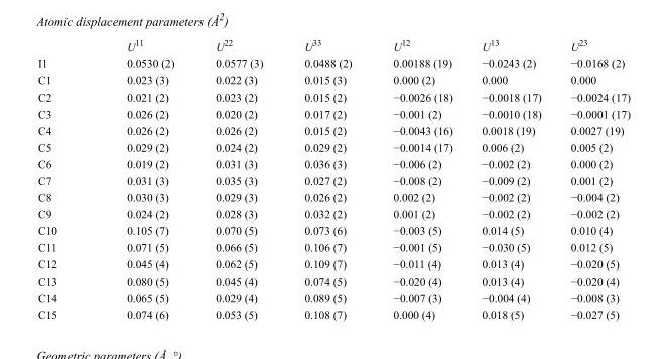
<table><thead><tr><td></td><td>U<sup>11</sup></td><td>U<sup>22</sup></td><td>U<sup>33</sup></td><td>U<sup>12</sup></td><td>U<sup>13</sup></td><td>U<sup>23</sup></td></tr></thead><tbody><tr><td>I1</td><td>0.0530 (2)</td><td>0.0577 (3)</td><td>0.0488 (2)</td><td>0.00188 (19)</td><td>−0.0243 (2)</td><td>−0.0168 (2)</td></tr><tr><td>C1</td><td>0.023 (3)</td><td>0.022 (3)</td><td>0.015 (3)</td><td>0.000 (2)</td><td>0.000</td><td>0.000</td></tr><tr><td>C2</td><td>0.021 (2)</td><td>0.023 (2)</td><td>0.015 (2)</td><td>−0.0026 (18)</td><td>−0.0018 (17)</td><td>−0.0024 (17)</td></tr><tr><td>C3</td><td>0.026 (2)</td><td>0.020 (2)</td><td>0.017 (2)</td><td>−0.001 (2)</td><td>−0.0010 (18)</td><td>−0.0001 (17)</td></tr><tr><td>C4</td><td>0.026 (2)</td><td>0.026 (2)</td><td>0.015 (2)</td><td>−0.0043 (16)</td><td>0.0018 (19)</td><td>0.0027 (19)</td></tr><tr><td>C5</td><td>0.029 (2)</td><td>0.024 (2)</td><td>0.029 (2)</td><td>−0.0014 (17)</td><td>0.006 (2)</td><td>0.005 (2)</td></tr><tr><td>C6</td><td>0.019 (2)</td><td>0.031 (3)</td><td>0.036 (3)</td><td>−0.006 (2)</td><td>−0.002 (2)</td><td>0.000 (2)</td></tr><tr><td>C7</td><td>0.031 (3)</td><td>0.035 (3)</td><td>0.027 (2)</td><td>−0.008 (2)</td><td>−0.009 (2)</td><td>0.001 (2)</td></tr><tr><td>C8</td><td>0.030 (3)</td><td>0.029 (3)</td><td>0.026 (2)</td><td>0.002 (2)</td><td>−0.002 (2)</td><td>−0.004 (2)</td></tr><tr><td>C9</td><td>0.024 (2)</td><td>0.028 (3)</td><td>0.032 (2)</td><td>0.001 (2)</td><td>−0.002 (2)</td><td>−0.002 (2)</td></tr><tr><td>C10</td><td>0.105 (7)</td><td>0.070 (5)</td><td>0.073 (6)</td><td>−0.003 (5)</td><td>0.014 (5)</td><td>0.010 (4)</td></tr><tr><td>C11</td><td>0.071 (5)</td><td>0.066 (5)</td><td>0.106 (7)</td><td>−0.001 (5)</td><td>−0.030 (5)</td><td>0.012 (5)</td></tr><tr><td>C12</td><td>0.045 (4)</td><td>0.062 (5)</td><td>0.109 (7)</td><td>−0.011 (4)</td><td>0.013 (4)</td><td>−0.020 (5)</td></tr><tr><td>C13</td><td>0.080 (5)</td><td>0.045 (4)</td><td>0.074 (5)</td><td>−0.020 (4)</td><td>0.013 (4)</td><td>−0.020 (4)</td></tr><tr><td>C14</td><td>0.065 (5)</td><td>0.029 (4)</td><td>0.089 (5)</td><td>−0.007 (3)</td><td>−0.004 (4)</td><td>−0.008 (3)</td></tr><tr><td>C15</td><td>0.074 (6)</td><td>0.053 (5)</td><td>0.108 (7)</td><td>0.000 (4)</td><td>0.018 (5)</td><td>−0.027 (5)</td></tr></tbody></table>